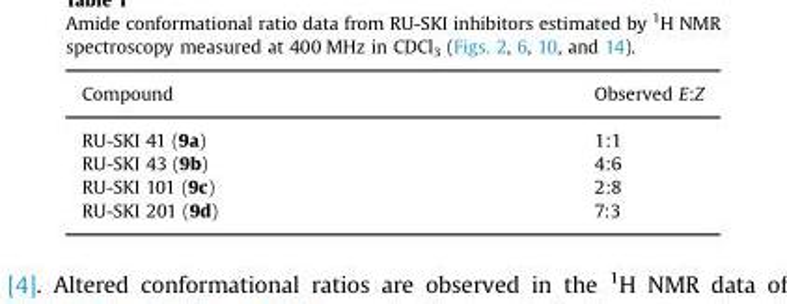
<table><thead><tr><td>Compound</td><td>Observed E:Z</td></tr></thead><tbody><tr><td>RU-SKI 41 (9a)</td><td>1:1</td></tr><tr><td>RU-SKI 43 (9b)</td><td>4:6</td></tr><tr><td>RU-SKI 101 (9c)</td><td>2:8</td></tr><tr><td>RU-SKI 201 (9d)</td><td>7:3</td></tr></tbody></table>